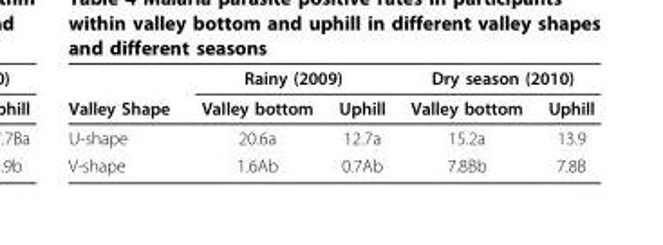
<table><thead><tr><td rowspan="2">Valley Shape</td><td colspan="2">Rainy (2009)</td><td colspan="2">Dry season (2010)</td></tr><tr><td>Valley bottom</td><td>Uphill</td><td>Valley bottom</td><td>Uphill</td></tr></thead><tbody><tr><td>U-shape</td><td>20.6a</td><td>12.7a</td><td>15.2a</td><td>13.9</td></tr><tr><td>V-shape</td><td>1.6Ab</td><td>0.7Ab</td><td>7.8Bb</td><td>7.8B</td></tr></tbody></table>